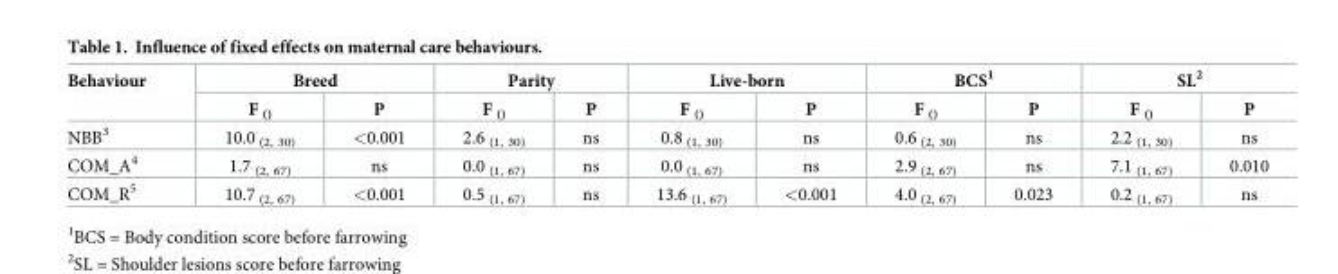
<table><thead><tr><td rowspan="2">Behaviour</td><td colspan="2">Breed</td><td colspan="2">Parity</td><td colspan="2">Live-born</td><td colspan="2">BCS<sup>1</sup></td><td colspan="2">SL<sup>2</sup></td></tr><tr><td>F <sub>()</sub></td><td>P</td><td>F <sub>()</sub></td><td>P</td><td>F <sub>()</sub></td><td>P</td><td>F <sub>()</sub></td><td>P</td><td>F <sub>()</sub></td><td>P</td></tr></thead><tbody><tr><td>NBB<sup>3</sup></td><td>10.0 <sub>(2, 30)</sub></td><td>&lt;0.001</td><td>2.6 <sub>(1, 30)</sub></td><td>ns</td><td>0.8 <sub>(1, 30)</sub></td><td>ns</td><td>0.6 <sub>(2, 30)</sub></td><td>ns</td><td>2.2 <sub>(1, 30)</sub></td><td>ns</td></tr><tr><td>COM_A<sup>4</sup></td><td>1.7 <sub>(2, 67)</sub></td><td>ns</td><td>0.0 <sub>(1, 67)</sub></td><td>ns</td><td>0.0 <sub>(1, 67)</sub></td><td>ns</td><td>2.9 <sub>(2, 67)</sub></td><td>ns</td><td>7.1 <sub>(1, 67)</sub></td><td>0.010</td></tr><tr><td>COM_R<sup>5</sup></td><td>10.7 <sub>(2, 67)</sub></td><td>&lt;0.001</td><td>0.5 <sub>(1, 67)</sub></td><td>ns</td><td>13.6 <sub>(1, 67)</sub></td><td>&lt;0.001</td><td>4.0 <sub>(2, 67)</sub></td><td>0.023</td><td>0.2 <sub>(1, 67)</sub></td><td>ns</td></tr></tbody></table>